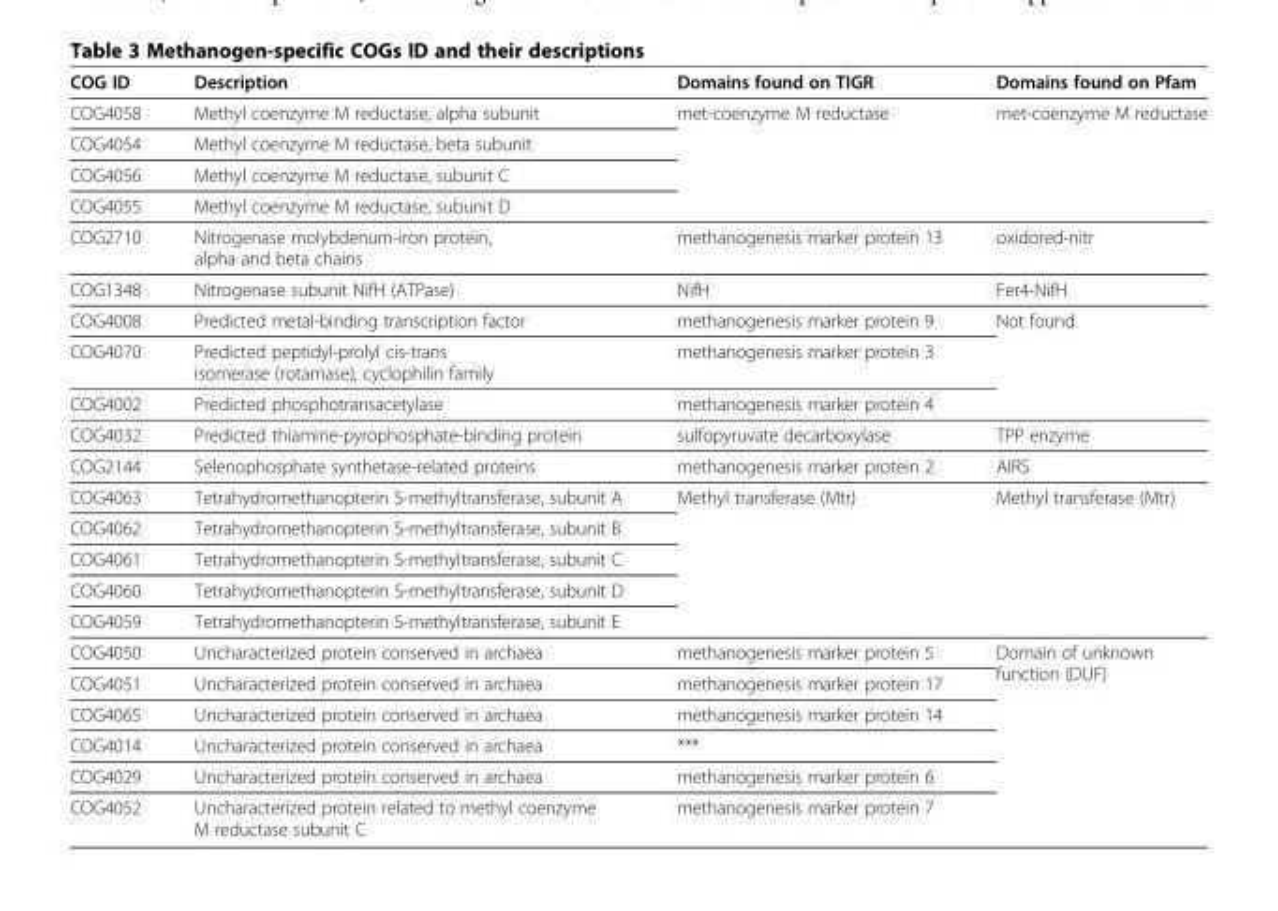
<table><thead><tr><td>COG ID</td><td>Description</td><td>Domains found on TIGR</td><td>Domains found on Pfam</td></tr></thead><tbody><tr><td>COG4058</td><td>Methyl coenzyme M reductase, alpha subunit</td><td rowspan="4">met-coenzyme M reductase</td><td rowspan="4">met-coenzyme M reductase</td></tr><tr><td>COG4054</td><td>Methyl coenzyme M reductase, beta subunit</td></tr><tr><td>COG4056</td><td>Methyl coenzyme M reductase, subunit C</td></tr><tr><td>COG4055</td><td>Methyl coenzyme M reductase, subunit D</td></tr><tr><td>COG2710</td><td>Nitrogenase molybdenum-iron protein, alpha and beta chains</td><td>methanogenesis marker protein 13</td><td>oxidored-nitr</td></tr><tr><td>COG1348</td><td>Nitrogenase subunit NifH (ATPase)</td><td>NifH</td><td>Fer4-NifH</td></tr><tr><td>COG4008</td><td>Predicted metal-binding transcription factor</td><td>methanogenesis marker protein 9</td><td rowspan="3">Not found</td></tr><tr><td>COG4070</td><td>Predicted peptidyl-prolyl cis-trans isomerase (rotamase), cyclophilin family</td><td>methanogenesis marker protein 3</td></tr><tr><td>COG4002</td><td>Predicted phosphotransacetylase</td><td>methanogenesis marker protein 4</td></tr><tr><td>COG4032</td><td>Predicted thiamine-pyrophosphate-binding protein</td><td>sulfopyruvate decarboxylase</td><td>TPP enzyme</td></tr><tr><td>COG2144</td><td>Selenophosphate synthetase-related proteins</td><td>methanogenesis marker protein 2</td><td>AIRS</td></tr><tr><td>COG4063</td><td>Tetrahydromethanopterin S-methyltransferase, subunit A</td><td rowspan="5">Methyl transferase (Mtr)</td><td rowspan="5">Methyl transferase (Mtr)</td></tr><tr><td>COG4062</td><td>Tetrahydromethanopterin S-methyltransferase, subunit B</td></tr><tr><td>COG4061</td><td>Tetrahydromethanopterin S-methyltransferase, subunit C</td></tr><tr><td>COG4060</td><td>Tetrahydromethanopterin S-methyltransferase, subunit D</td></tr><tr><td>COG4059</td><td>Tetrahydromethanopterin S-methyltransferase, subunit E</td></tr><tr><td>COG4050</td><td>Uncharacterized protein conserved in archaea</td><td>methanogenesis marker protein 5</td><td rowspan="6">Domain of unknown function (DUF)</td></tr><tr><td>COG4051</td><td>Uncharacterized protein conserved in archaea</td><td>methanogenesis marker protein 17</td></tr><tr><td>COG4065</td><td>Uncharacterized protein conserved in archaea</td><td>methanogenesis marker protein 14</td></tr><tr><td>COG4014</td><td>Uncharacterized protein conserved in archaea</td><td>***</td></tr><tr><td>COG4029</td><td>Uncharacterized protein conserved in archaea</td><td>methanogenesis marker protein 6</td></tr><tr><td>COG4052</td><td>Uncharacterized protein related to methyl coenzyme M reductase subunit C</td><td>methanogenesis marker protein 7</td></tr></tbody></table>